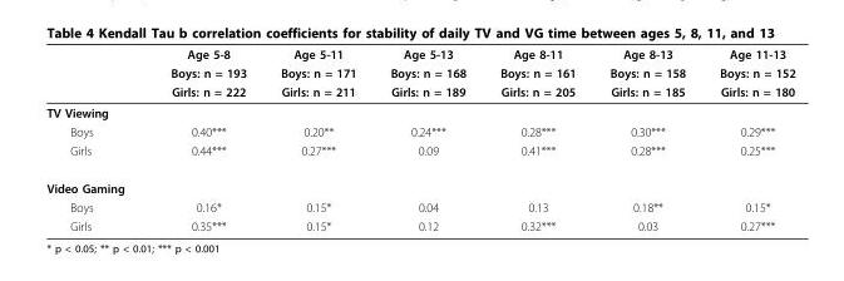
<table><thead><tr><td rowspan="3"></td><td rowspan="3">Age 5-8 Boys: n = 193 Girls: n = 222</td><td rowspan="3">Age 5-11 Boys: n = 171 Girls: n = 211</td><td rowspan="3">Age 5-13 Boys: n = 168 Girls: n = 189</td><td rowspan="3">Age 8-11 Boys: n = 161 Girls: n = 205</td><td rowspan="3">Age 8-13 Boys: n = 158 Girls: n = 185</td><td rowspan="3">Age 11-13 Boys: n = 152 Girls: n = 180</td></tr><tr></tr><tr></tr></thead><tbody><tr><td colspan="7">TV Viewing</td></tr><tr><td>Boys</td><td>0.40***</td><td>0.20**</td><td>0.24***</td><td>0.28***</td><td>0.30***</td><td>0.29***</td></tr><tr><td>Girls</td><td>0.44***</td><td>0.27***</td><td>0.09</td><td>0.41***</td><td>0.28***</td><td>0.25***</td></tr><tr><td colspan="7">Video Gaming</td></tr><tr><td>Boys</td><td>0.16*</td><td>0.15*</td><td>0.04</td><td>0.13</td><td>0.18**</td><td>0.15*</td></tr><tr><td>Girls</td><td>0.35***</td><td>0.15*</td><td>0.12</td><td>0.32***</td><td>0.03</td><td>0.27***</td></tr></tbody></table>